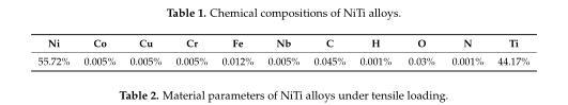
<table><thead><tr><td>Ni</td><td>Co</td><td>Cu</td><td>Cr</td><td>Fe</td><td>Nb</td><td>C</td><td>H</td><td>O</td><td>N</td><td>Ti</td></tr></thead><tbody><tr><td>55.72%</td><td>0.005%</td><td>0.005%</td><td>0.005%</td><td>0.012%</td><td>0.005%</td><td>0.045%</td><td>0.001%</td><td>0.03%</td><td>0.001%</td><td>44.17%</td></tr></tbody></table>